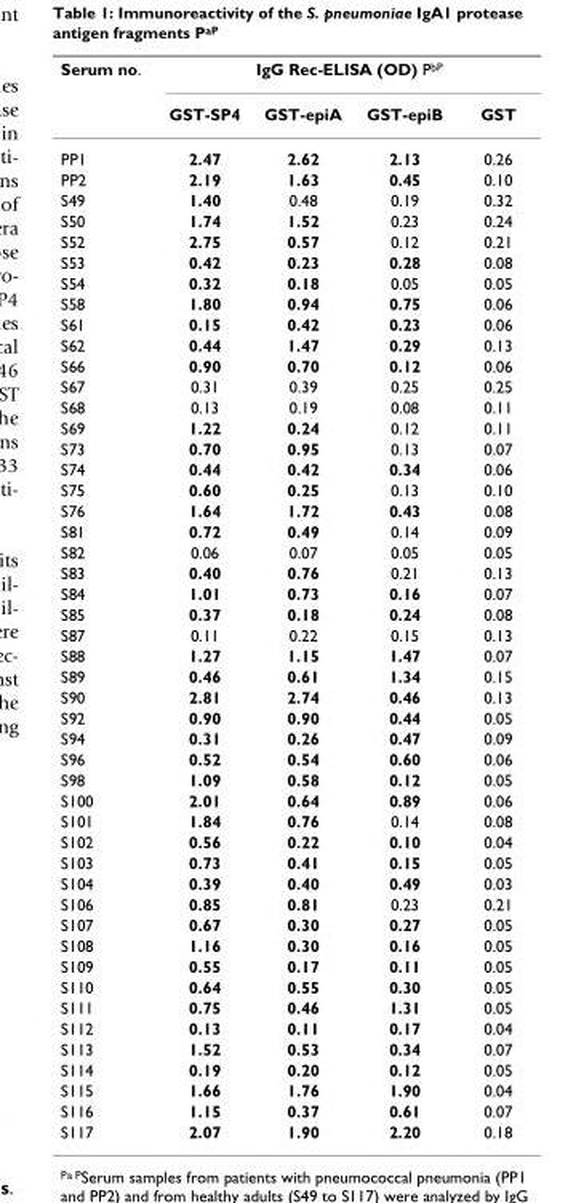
<table><thead><tr><td rowspan="2">Serum no.</td><td colspan="4">IgG Rec-ELISA (OD) P<sup>bP</sup></td></tr><tr><td>GST-SP4</td><td>GST-epiA</td><td>GST-epiB</td><td>GST</td></tr></thead><tbody><tr><td>PP1</td><td>2.47</td><td>2.62</td><td>2.13</td><td>0.26</td></tr><tr><td>PP2</td><td>2.19</td><td>1.63</td><td>0.45</td><td>0.10</td></tr><tr><td>S49</td><td>1.40</td><td>0.48</td><td>0.19</td><td>0.32</td></tr><tr><td>S50</td><td>1.74</td><td>1.52</td><td>0.23</td><td>0.24</td></tr><tr><td>S52</td><td>2.75</td><td>0.57</td><td>0.12</td><td>0.21</td></tr><tr><td>S53</td><td>0.42</td><td>0.23</td><td>0.28</td><td>0.08</td></tr><tr><td>S54</td><td>0.32</td><td>0.18</td><td>0.05</td><td>0.05</td></tr><tr><td>S58</td><td>1.80</td><td>0.94</td><td>0.75</td><td>0.06</td></tr><tr><td>S61</td><td>0.15</td><td>0.42</td><td>0.23</td><td>0.06</td></tr><tr><td>S62</td><td>0.44</td><td>1.47</td><td>0.29</td><td>0.13</td></tr><tr><td>S66</td><td>0.90</td><td>0.70</td><td>0.12</td><td>0.06</td></tr><tr><td>S67</td><td>0.31</td><td>0.39</td><td>0.25</td><td>0.25</td></tr><tr><td>S68</td><td>0.13</td><td>0.19</td><td>0.08</td><td>0.11</td></tr><tr><td>S69</td><td>1.22</td><td>0.24</td><td>0.12</td><td>0.11</td></tr><tr><td>S73</td><td>0.70</td><td>0.95</td><td>0.13</td><td>0.07</td></tr><tr><td>S74</td><td>0.44</td><td>0.42</td><td>0.34</td><td>0.06</td></tr><tr><td>S75</td><td>0.60</td><td>0.25</td><td>0.13</td><td>0.10</td></tr><tr><td>S76</td><td>1.64</td><td>1.72</td><td>0.43</td><td>0.08</td></tr><tr><td>S81</td><td>0.72</td><td>0.49</td><td>0.14</td><td>0.09</td></tr><tr><td>S82</td><td>0.06</td><td>0.07</td><td>0.05</td><td>0.05</td></tr><tr><td>S83</td><td>0.40</td><td>0.76</td><td>0.21</td><td>0.13</td></tr><tr><td>S84</td><td>1.01</td><td>0.73</td><td>0.16</td><td>0.07</td></tr><tr><td>S85</td><td>0.37</td><td>0.18</td><td>0.24</td><td>0.08</td></tr><tr><td>S87</td><td>0.11</td><td>0.22</td><td>0.15</td><td>0.13</td></tr><tr><td>S88</td><td>1.27</td><td>1.15</td><td>1.47</td><td>0.07</td></tr><tr><td>S89</td><td>0.46</td><td>0.61</td><td>1.34</td><td>0.15</td></tr><tr><td>S90</td><td>2.81</td><td>2.74</td><td>0.46</td><td>0.13</td></tr><tr><td>S92</td><td>0.90</td><td>0.90</td><td>0.44</td><td>0.05</td></tr><tr><td>S94</td><td>0.31</td><td>0.26</td><td>0.47</td><td>0.09</td></tr><tr><td>S96</td><td>0.52</td><td>0.54</td><td>0.60</td><td>0.06</td></tr><tr><td>S98</td><td>1.09</td><td>0.58</td><td>0.12</td><td>0.05</td></tr><tr><td>S100</td><td>2.01</td><td>0.64</td><td>0.89</td><td>0.06</td></tr><tr><td>S101</td><td>1.84</td><td>0.76</td><td>0.14</td><td>0.08</td></tr><tr><td>S102</td><td>0.56</td><td>0.22</td><td>0.10</td><td>0.04</td></tr><tr><td>S103</td><td>0.73</td><td>0.41</td><td>0.15</td><td>0.05</td></tr><tr><td>S104</td><td>0.39</td><td>0.40</td><td>0.49</td><td>0.03</td></tr><tr><td>S106</td><td>0.85</td><td>0.81</td><td>0.23</td><td>0.21</td></tr><tr><td>S107</td><td>0.67</td><td>0.30</td><td>0.27</td><td>0.05</td></tr><tr><td>S108</td><td>1.16</td><td>0.30</td><td>0.16</td><td>0.05</td></tr><tr><td>S109</td><td>0.55</td><td>0.17</td><td>0.11</td><td>0.05</td></tr><tr><td>S110</td><td>0.64</td><td>0.55</td><td>0.30</td><td>0.05</td></tr><tr><td>S111</td><td>0.75</td><td>0.46</td><td>1.31</td><td>0.05</td></tr><tr><td>S112</td><td>0.13</td><td>0.11</td><td>0.17</td><td>0.04</td></tr><tr><td>S113</td><td>1.52</td><td>0.53</td><td>0.34</td><td>0.07</td></tr><tr><td>S114</td><td>0.19</td><td>0.20</td><td>0.12</td><td>0.05</td></tr><tr><td>S115</td><td>1.66</td><td>1.76</td><td>1.90</td><td>0.04</td></tr><tr><td>S116</td><td>1.15</td><td>0.37</td><td>0.61</td><td>0.07</td></tr><tr><td>S117</td><td>2.07</td><td>1.90</td><td>2.20</td><td>0.18</td></tr></tbody></table>